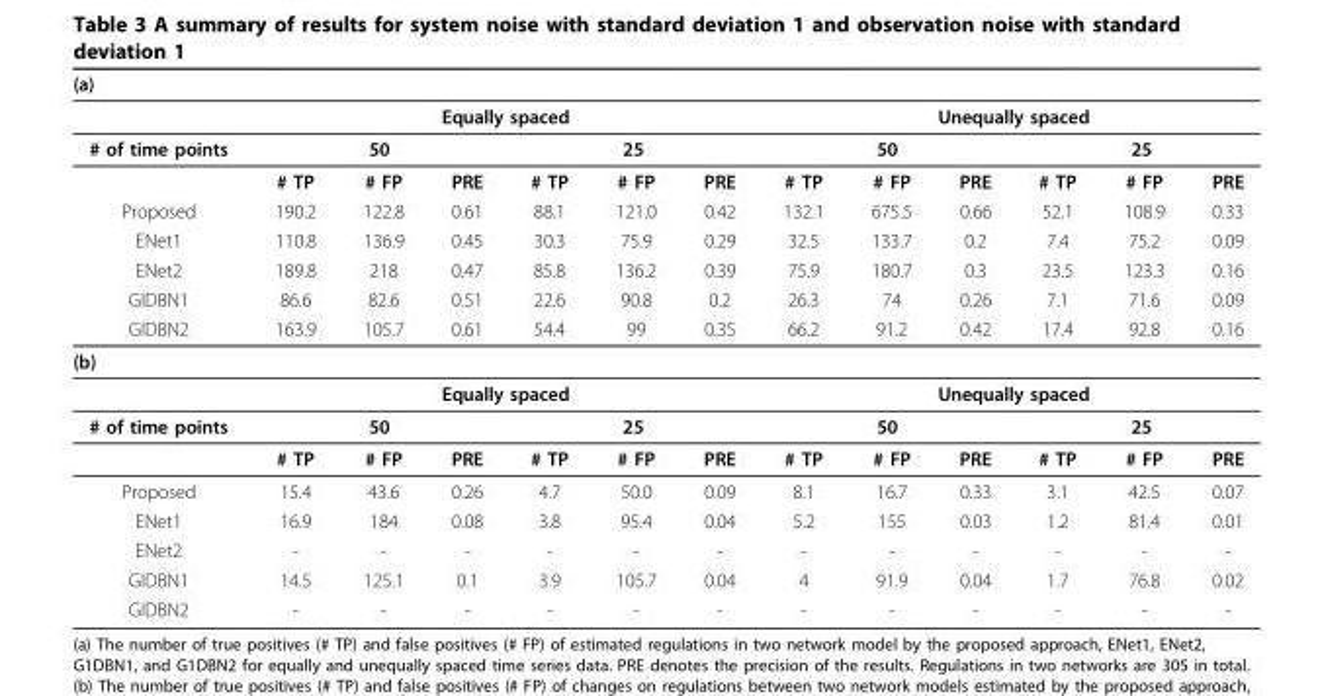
<table><thead><tr><td>(a)</td><td></td><td></td><td></td><td></td><td></td><td></td><td></td><td></td><td></td><td></td><td></td><td></td></tr></thead><tbody><tr><td></td><td colspan="6">Equally spaced</td><td colspan="6">Unequally spaced</td></tr><tr><td rowspan="2"># of time points</td><td colspan="3">50</td><td colspan="3">25</td><td colspan="3">50</td><td colspan="3">25</td></tr><tr><td># TP</td><td># FP</td><td>PRE</td><td># TP</td><td># FP</td><td>PRE</td><td># TP</td><td># FP</td><td>PRE</td><td># TP</td><td># FP</td><td>PRE</td></tr><tr><td>Proposed</td><td>190.2</td><td>122.8</td><td>0.61</td><td>88.1</td><td>121.0</td><td>0.42</td><td>132.1</td><td>675.5</td><td>0.66</td><td>52.1</td><td>108.9</td><td>0.33</td></tr><tr><td>ENet1</td><td>110.8</td><td>136.9</td><td>0.45</td><td>30.3</td><td>75.9</td><td>0.29</td><td>32.5</td><td>133.7</td><td>0.2</td><td>7.4</td><td>75.2</td><td>0.09</td></tr><tr><td>ENet2</td><td>189.8</td><td>218</td><td>0.47</td><td>85.8</td><td>136.2</td><td>0.39</td><td>75.9</td><td>180.7</td><td>0.3</td><td>23.5</td><td>123.3</td><td>0.16</td></tr><tr><td>GIDBN1</td><td>86.6</td><td>82.6</td><td>0.51</td><td>22.6</td><td>90.8</td><td>0.2</td><td>26.3</td><td>74</td><td>0.26</td><td>7.1</td><td>71.6</td><td>0.09</td></tr><tr><td>GIDBN2</td><td>163.9</td><td>105.7</td><td>0.61</td><td>54.4</td><td>99</td><td>0.35</td><td>66.2</td><td>91.2</td><td>0.42</td><td>17.4</td><td>92.8</td><td>0.16</td></tr><tr><td colspan="13">(b)</td></tr><tr><td></td><td colspan="6">Equally spaced</td><td colspan="6">Unequally spaced</td></tr><tr><td rowspan="2"># of time points</td><td colspan="3">50</td><td colspan="3">25</td><td colspan="3">50</td><td colspan="3">25</td></tr><tr><td># TP</td><td># FP</td><td>PRE</td><td># TP</td><td># FP</td><td>PRE</td><td># TP</td><td># FP</td><td>PRE</td><td># TP</td><td># FP</td><td>PRE</td></tr><tr><td>Proposed</td><td>15.4</td><td>43.6</td><td>0.26</td><td>4.7</td><td>50.0</td><td>0.09</td><td>8.1</td><td>16.7</td><td>0.33</td><td>3.1</td><td>42.5</td><td>0.07</td></tr><tr><td>ENet1</td><td>16.9</td><td>184</td><td>0.08</td><td>3.8</td><td>95.4</td><td>0.04</td><td>5.2</td><td>155</td><td>0.03</td><td>1.2</td><td>81.4</td><td>0.01</td></tr><tr><td>ENet2</td><td>-</td><td>-</td><td>-</td><td>-</td><td>-</td><td>-</td><td>-</td><td>-</td><td>-</td><td>-</td><td>-</td><td>-</td></tr><tr><td>GIDBN1</td><td>14.5</td><td>125.1</td><td>0.1</td><td>3.9</td><td>105.7</td><td>0.04</td><td>4</td><td>91.9</td><td>0.04</td><td>1.7</td><td>76.8</td><td>0.02</td></tr><tr><td>GIDBN2</td><td>-</td><td>-</td><td>-</td><td>-</td><td>-</td><td>-</td><td>-</td><td>-</td><td>-</td><td>-</td><td>-</td><td>-</td></tr></tbody></table>